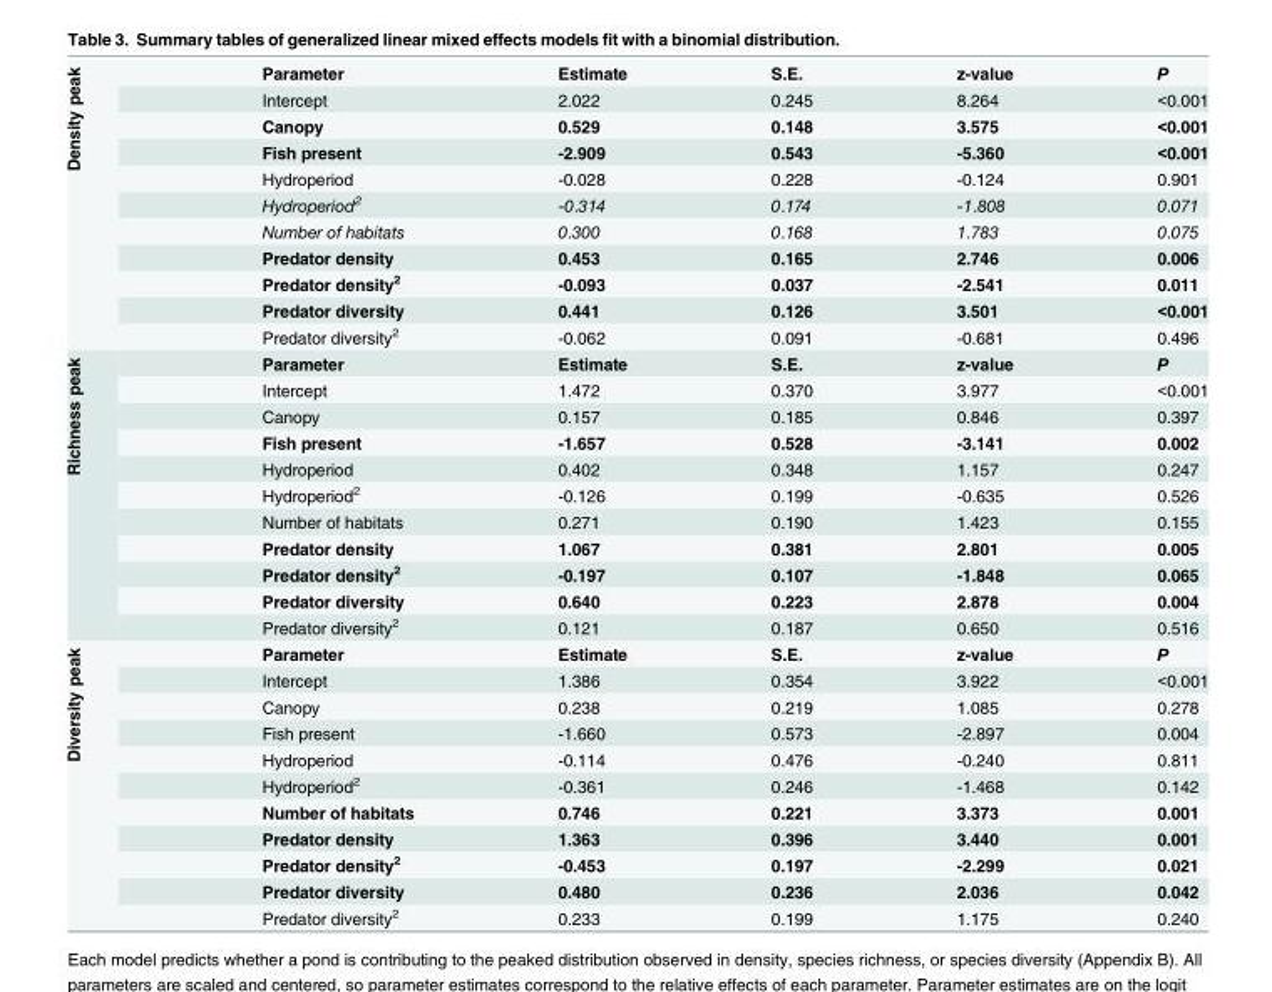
<table><tbody><tr><td rowspan="11">Density peak</td><td>Parameter</td><td>Estimate</td><td>S.E.</td><td>z-value</td><td>P</td></tr><tr><td>Intercept</td><td>2.022</td><td>0.245</td><td>8.264</td><td>&lt;0.001</td></tr><tr><td>Canopy</td><td>0.529</td><td>0.148</td><td>3.575</td><td>&lt;0.001</td></tr><tr><td>Fish present</td><td>-2.909</td><td>0.543</td><td>-5.360</td><td>&lt;0.001</td></tr><tr><td>Hydroperiod</td><td>-0.028</td><td>0.228</td><td>-0.124</td><td>0.901</td></tr><tr><td>Hydroperiod<sup>2</sup></td><td>-0.314</td><td>0.174</td><td>-1.808</td><td>0.071</td></tr><tr><td>Number of habitats</td><td>0.300</td><td>0.168</td><td>1.783</td><td>0.075</td></tr><tr><td>Predator density</td><td>0.453</td><td>0.165</td><td>2.746</td><td>0.006</td></tr><tr><td>Predator density<sup>2</sup></td><td>-0.093</td><td>0.037</td><td>-2.541</td><td>0.011</td></tr><tr><td>Predator diversity</td><td>0.441</td><td>0.126</td><td>3.501</td><td>&lt;0.001</td></tr><tr><td>Predator diversity<sup>2</sup></td><td>-0.062</td><td>0.091</td><td>-0.681</td><td>0.496</td></tr><tr><td rowspan="11">Richness peak</td><td>Parameter</td><td>Estimate</td><td>S.E.</td><td>z-value</td><td>P</td></tr><tr><td>Intercept</td><td>1.472</td><td>0.370</td><td>3.977</td><td>&lt;0.001</td></tr><tr><td>Canopy</td><td>0.157</td><td>0.185</td><td>0.846</td><td>0.397</td></tr><tr><td>Fish present</td><td>-1.657</td><td>0.528</td><td>-3.141</td><td>0.002</td></tr><tr><td>Hydroperiod</td><td>0.402</td><td>0.348</td><td>1.157</td><td>0.247</td></tr><tr><td>Hydroperiod<sup>2</sup></td><td>-0.126</td><td>0.199</td><td>-0.635</td><td>0.526</td></tr><tr><td>Number of habitats</td><td>0.271</td><td>0.190</td><td>1.423</td><td>0.155</td></tr><tr><td>Predator density</td><td>1.067</td><td>0.381</td><td>2.801</td><td>0.005</td></tr><tr><td>Predator density<sup>2</sup></td><td>-0.197</td><td>0.107</td><td>-1.848</td><td>0.065</td></tr><tr><td>Predator diversity</td><td>0.640</td><td>0.223</td><td>2.878</td><td>0.004</td></tr><tr><td>Predator diversity<sup>2</sup></td><td>0.121</td><td>0.187</td><td>0.650</td><td>0.516</td></tr><tr><td rowspan="11">Diversity peak</td><td>Parameter</td><td>Estimate</td><td>S.E.</td><td>z-value</td><td>P</td></tr><tr><td>Intercept</td><td>1.386</td><td>0.354</td><td>3.922</td><td>&lt;0.001</td></tr><tr><td>Canopy</td><td>0.238</td><td>0.219</td><td>1.085</td><td>0.278</td></tr><tr><td>Fish present</td><td>-1.660</td><td>0.573</td><td>-2.897</td><td>0.004</td></tr><tr><td>Hydroperiod</td><td>-0.114</td><td>0.476</td><td>-0.240</td><td>0.811</td></tr><tr><td>Hydroperiod<sup>2</sup></td><td>-0.361</td><td>0.246</td><td>-1.468</td><td>0.142</td></tr><tr><td>Number of habitats</td><td>0.746</td><td>0.221</td><td>3.373</td><td>0.001</td></tr><tr><td>Predator density</td><td>1.363</td><td>0.396</td><td>3.440</td><td>0.001</td></tr><tr><td>Predator density<sup>2</sup></td><td>-0.453</td><td>0.197</td><td>-2.299</td><td>0.021</td></tr><tr><td>Predator diversity</td><td>0.480</td><td>0.236</td><td>2.036</td><td>0.042</td></tr><tr><td>Predator diversity<sup>2</sup></td><td>0.233</td><td>0.199</td><td>1.175</td><td>0.240</td></tr></tbody></table>